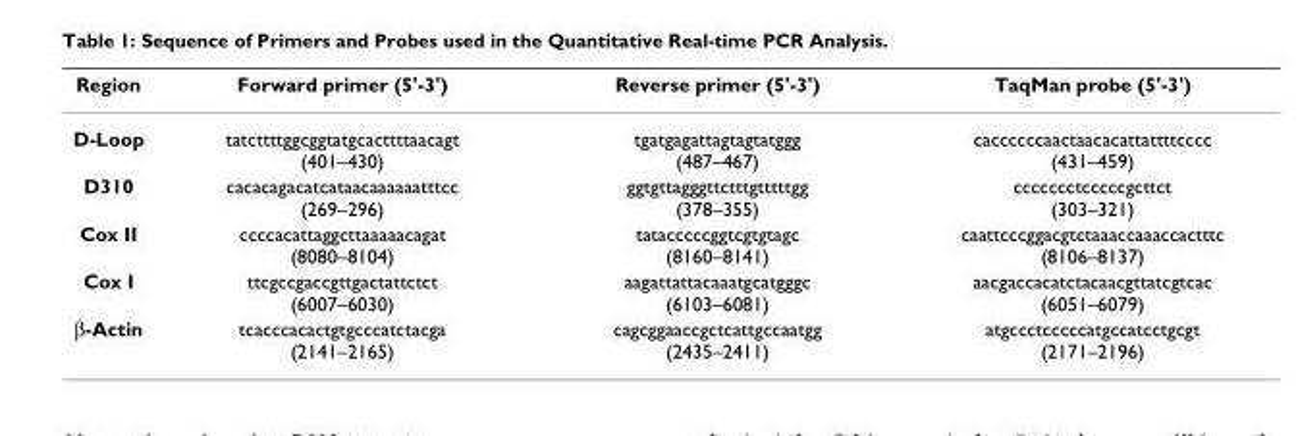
<table><thead><tr><td>Region</td><td>Forward primer (5&#x27;-3&#x27;)</td><td>Reverse primer (5&#x27;-3&#x27;)</td><td>TaqMan probe (5&#x27;-3&#x27;)</td></tr></thead><tbody><tr><td>D-Loop</td><td>tatcttttggcggtatgcacttttaacagt (401–430)</td><td>tgatgagattagtagtatggg (487–467)</td><td>caccccccaactaacacattattttcccc (431–459)</td></tr><tr><td>D310</td><td>cacacagacatcataacaaaaaatttcc (269–296)</td><td>ggtgttagggttctttgtttttgg (378–355)</td><td>ccccccctcccccgcttct (303–321)</td></tr><tr><td>Cox II</td><td>ccccacattaggcttaaaaacagat (8080–8104)</td><td>tatacccccggtcgtgtagc (8160–8141)</td><td>caattcccggacgtctaaaccaaaccactttc (8106–8137)</td></tr><tr><td>Cox I</td><td>ttcgccgaccgttgactattctct (6007–6030)</td><td>aagattattacaaatgcatgggc (6103–6081)</td><td>aacgaccacatctacaacgttatcgtcac (6051–6079)</td></tr><tr><td>β-Actin</td><td>tcacccacactgtgcccatctacga (2141–2165)</td><td>cagcggaaccgctcattgccaatgg (2435–2411)</td><td>atgccctcccccatgccatcctgcgt (2171–2196)</td></tr></tbody></table>